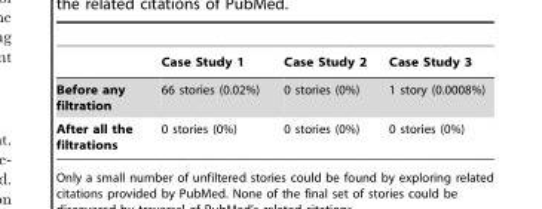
<table><thead><tr><td></td><td>Case Study 1</td><td>Case Study 2</td><td>Case Study 3</td></tr></thead><tbody><tr><td>Before any filtration</td><td>66 stories (0.02%)</td><td>0 stories (0%)</td><td>1 story (0.0008%)</td></tr><tr><td>After all the filtrations</td><td>0 stories (0%)</td><td>0 stories (0%)</td><td>0 stories (0%)</td></tr></tbody></table>